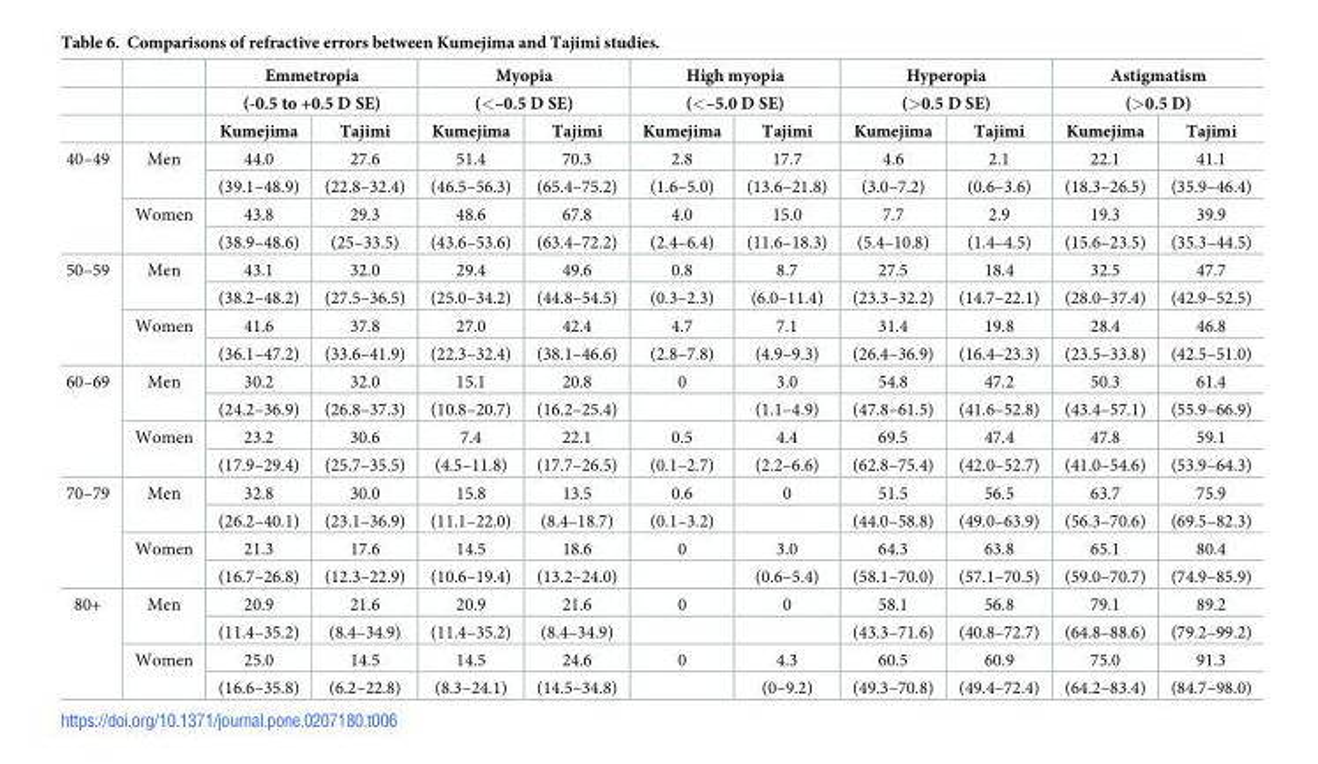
<table><thead><tr><td rowspan="3"></td><td rowspan="3"></td><td rowspan="2" colspan="2">Emmetropia (-0.5 to +0.5 D SE)</td><td rowspan="2" colspan="2">Myopia (&lt;–0.5 D SE)</td><td rowspan="2" colspan="2">High myopia (&lt;–5.0 D SE)</td><td rowspan="2" colspan="2">Hyperopia (&gt;0.5 D SE)</td><td rowspan="2" colspan="2">Astigmatism (&gt;0.5 D)</td></tr><tr></tr><tr><td>Kumejima</td><td>Tajimi</td><td>Kumejima</td><td>Tajimi</td><td>Kumejima</td><td>Tajimi</td><td>Kumejima</td><td>Tajimi</td><td>Kumejima</td><td>Tajimi</td></tr></thead><tbody><tr><td rowspan="4">40–49</td><td rowspan="2">Men</td><td>44.0</td><td>27.6</td><td>51.4</td><td>70.3</td><td>2.8</td><td>17.7</td><td>4.6</td><td>2.1</td><td>22.1</td><td>41.1</td></tr><tr><td>(39.1–48.9)</td><td>(22.8–32.4)</td><td>(46.5–56.3)</td><td>(65.4–75.2)</td><td>(1.6–5.0)</td><td>(13.6–21.8)</td><td>(3.0–7.2)</td><td>(0.6–3.6)</td><td>(18.3–26.5)</td><td>(35.9–46.4)</td></tr><tr><td rowspan="2">Women</td><td>43.8</td><td>29.3</td><td>48.6</td><td>67.8</td><td>4.0</td><td>15.0</td><td>7.7</td><td>2.9</td><td>19.3</td><td>39.9</td></tr><tr><td>(38.9–48.6)</td><td>(25–33.5)</td><td>(43.6–53.6)</td><td>(63.4–72.2)</td><td>(2.4–6.4)</td><td>(11.6–18.3)</td><td>(5.4–10.8)</td><td>(1.4–4.5)</td><td>(15.6–23.5)</td><td>(35.3–44.5)</td></tr><tr><td rowspan="4">50–59</td><td rowspan="2">Men</td><td>43.1</td><td>32.0</td><td>29.4</td><td>49.6</td><td>0.8</td><td>8.7</td><td>27.5</td><td>18.4</td><td>32.5</td><td>47.7</td></tr><tr><td>(38.2–48.2)</td><td>(27.5–36.5)</td><td>(25.0–34.2)</td><td>(44.8–54.5)</td><td>(0.3–2.3)</td><td>(6.0–11.4)</td><td>(23.3–32.2)</td><td>(14.7–22.1)</td><td>(28.0–37.4)</td><td>(42.9–52.5)</td></tr><tr><td rowspan="2">Women</td><td>41.6</td><td>37.8</td><td>27.0</td><td>42.4</td><td>4.7</td><td>7.1</td><td>31.4</td><td>19.8</td><td>28.4</td><td>46.8</td></tr><tr><td>(36.1–47.2)</td><td>(33.6–41.9)</td><td>(22.3–32.4)</td><td>(38.1–46.6)</td><td>(2.8–7.8)</td><td>(4.9–9.3)</td><td>(26.4–36.9)</td><td>(16.4–23.3)</td><td>(23.5–33.8)</td><td>(42.5–51.0)</td></tr><tr><td rowspan="4">60–69</td><td rowspan="2">Men</td><td>30.2</td><td>32.0</td><td>15.1</td><td>20.8</td><td>0</td><td>3.0</td><td>54.8</td><td>47.2</td><td>50.3</td><td>61.4</td></tr><tr><td>(24.2–36.9)</td><td>(26.8–37.3)</td><td>(10.8–20.7)</td><td>(16.2–25.4)</td><td></td><td>(1.1–4.9)</td><td>(47.8–61.5)</td><td>(41.6–52.8)</td><td>(43.4–57.1)</td><td>(55.9–66.9)</td></tr><tr><td rowspan="2">Women</td><td>23.2</td><td>30.6</td><td>7.4</td><td>22.1</td><td>0.5</td><td>4.4</td><td>69.5</td><td>47.4</td><td>47.8</td><td>59.1</td></tr><tr><td>(17.9–29.4)</td><td>(25.7–35.5)</td><td>(4.5–11.8)</td><td>(17.7–26.5)</td><td>(0.1–2.7)</td><td>(2.2–6.6)</td><td>(62.8–75.4)</td><td>(42.0–52.7)</td><td>(41.0–54.6)</td><td>(53.9–64.3)</td></tr><tr><td rowspan="4">70–79</td><td rowspan="2">Men</td><td>32.8</td><td>30.0</td><td>15.8</td><td>13.5</td><td>0.6</td><td>0</td><td>51.5</td><td>56.5</td><td>63.7</td><td>75.9</td></tr><tr><td>(26.2–40.1)</td><td>(23.1–36.9)</td><td>(11.1–22.0)</td><td>(8.4–18.7)</td><td>(0.1–3.2)</td><td></td><td>(44.0–58.8)</td><td>(49.0–63.9)</td><td>(56.3–70.6)</td><td>(69.5–82.3)</td></tr><tr><td rowspan="2">Women</td><td>21.3</td><td>17.6</td><td>14.5</td><td>18.6</td><td>0</td><td>3.0</td><td>64.3</td><td>63.8</td><td>65.1</td><td>80.4</td></tr><tr><td>(16.7–26.8)</td><td>(12.3–22.9)</td><td>(10.6–19.4)</td><td>(13.2–24.0)</td><td></td><td>(0.6–5.4)</td><td>(58.1–70.0)</td><td>(57.1–70.5)</td><td>(59.0–70.7)</td><td>(74.9–85.9)</td></tr><tr><td rowspan="4">80+</td><td rowspan="2">Men</td><td>20.9</td><td>21.6</td><td>20.9</td><td>21.6</td><td>0</td><td>0</td><td>58.1</td><td>56.8</td><td>79.1</td><td>89.2</td></tr><tr><td>(11.4–35.2)</td><td>(8.4–34.9)</td><td>(11.4–35.2)</td><td>(8.4–34.9)</td><td></td><td></td><td>(43.3–71.6)</td><td>(40.8–72.7)</td><td>(64.8–88.6)</td><td>(79.2–99.2)</td></tr><tr><td rowspan="2">Women</td><td>25.0</td><td>14.5</td><td>14.5</td><td>24.6</td><td>0</td><td>4.3</td><td>60.5</td><td>60.9</td><td>75.0</td><td>91.3</td></tr><tr><td>(16.6–35.8)</td><td>(6.2–22.8)</td><td>(8.3–24.1)</td><td>(14.5–34.8)</td><td></td><td>(0–9.2)</td><td>(49.3–70.8)</td><td>(49.4–72.4)</td><td>(64.2–83.4)</td><td>(84.7–98.0)</td></tr></tbody></table>